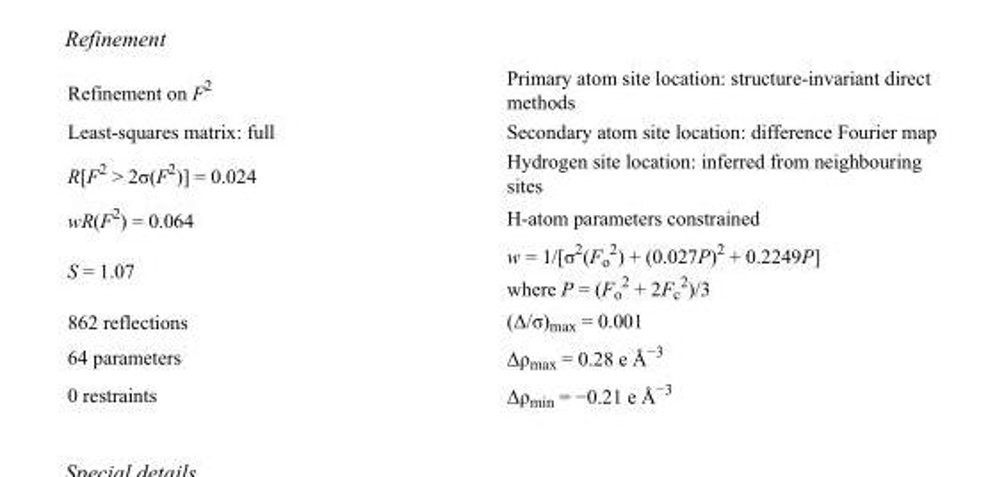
<table><tbody><tr><td>Refinement on F<sup>2</sup></td><td>Primary atom site location: structure-invariant direct methods</td></tr><tr><td>Least-squares matrix: full</td><td>Secondary atom site location: difference Fourier map</td></tr><tr><td>R[F<sup>2</sup> &gt; 2σ(F<sup>2</sup>)] = 0.024</td><td>Hydrogen site location: inferred from neighbouring sites</td></tr><tr><td>wR(F<sup>2</sup>) = 0.064</td><td>H-atom parameters constrained</td></tr><tr><td>S = 1.07</td><td>w = 1/[σ<sup>2</sup>(F<sub>o</sub> <sup>2</sup>) + (0.027P)<sup>2</sup> + 0.2249P] where P = (F<sub>o</sub> <sup>2</sup> + 2F<sub>c</sub> <sup>2</sup>)/3</td></tr><tr><td>862 reflections</td><td>(Δ/σ)<sub>max</sub> = 0.001</td></tr><tr><td>64 parameters</td><td>Δρ<sub>max</sub> = 0.28 e Å<sup>−3</sup></td></tr><tr><td>0 restraints</td><td>Δρ<sub>min</sub> = −0.21 e Å<sup>−3</sup></td></tr></tbody></table>